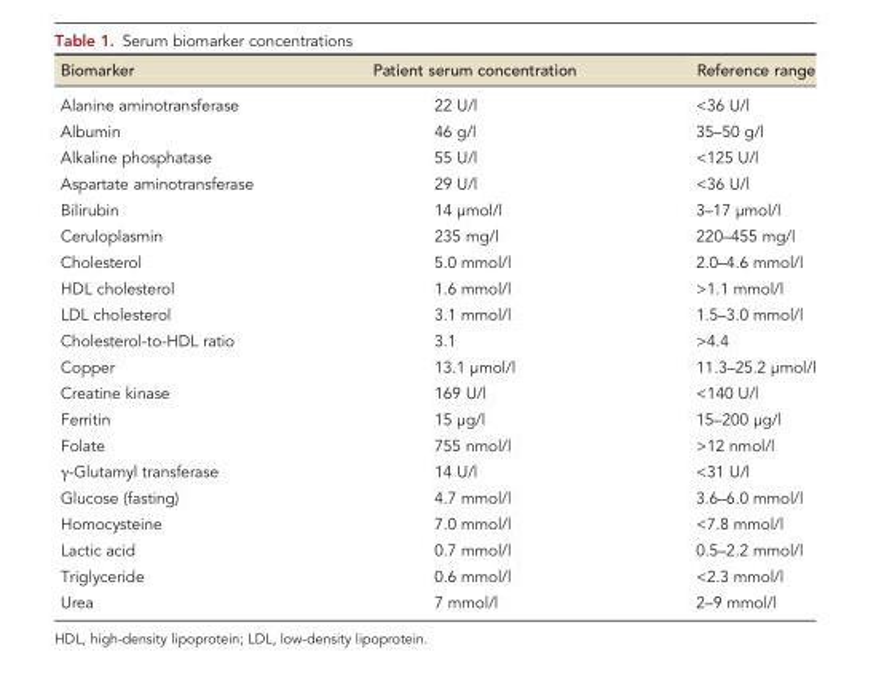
<table><thead><tr><td>Biomarker</td><td>Patient serum concentration</td><td>Reference range</td></tr></thead><tbody><tr><td>Alanine aminotransferase</td><td>22 U/l</td><td>&lt;36 U/l</td></tr><tr><td>Albumin</td><td>46 g/l</td><td>35–50 g/l</td></tr><tr><td>Alkaline phosphatase</td><td>55 U/l</td><td>&lt;125 U/l</td></tr><tr><td>Aspartate aminotransferase</td><td>29 U/l</td><td>&lt;36 U/l</td></tr><tr><td>Bilirubin</td><td>14 µmol/l</td><td>3–17 µmol/l</td></tr><tr><td>Ceruloplasmin</td><td>235 mg/l</td><td>220–455 mg/l</td></tr><tr><td>Cholesterol</td><td>5.0 mmol/l</td><td>2.0–4.6 mmol/l</td></tr><tr><td>HDL cholesterol</td><td>1.6 mmol/l</td><td>&gt;1.1 mmol/l</td></tr><tr><td>LDL cholesterol</td><td>3.1 mmol/l</td><td>1.5–3.0 mmol/l</td></tr><tr><td>Cholesterol-to-HDL ratio</td><td>3.1</td><td>&gt;4.4</td></tr><tr><td>Copper</td><td>13.1 µmol/l</td><td>11.3–25.2 µmol/l</td></tr><tr><td>Creatine kinase</td><td>169 U/l</td><td>&lt;140 U/l</td></tr><tr><td>Ferritin</td><td>15 µg/l</td><td>15–200 µg/l</td></tr><tr><td>Folate</td><td>755 nmol/l</td><td>&gt;12 nmol/l</td></tr><tr><td>γ-Glutamyl transferase</td><td>14 U/l</td><td>&lt;31 U/l</td></tr><tr><td>Glucose (fasting)</td><td>4.7 mmol/l</td><td>3.6–6.0 mmol/l</td></tr><tr><td>Homocysteine</td><td>7.0 mmol/l</td><td>&lt;7.8 mmol/l</td></tr><tr><td>Lactic acid</td><td>0.7 mmol/l</td><td>0.5–2.2 mmol/l</td></tr><tr><td>Triglyceride</td><td>0.6 mmol/l</td><td>&lt;2.3 mmol/l</td></tr><tr><td>Urea</td><td>7 mmol/l</td><td>2–9 mmol/l</td></tr></tbody></table>